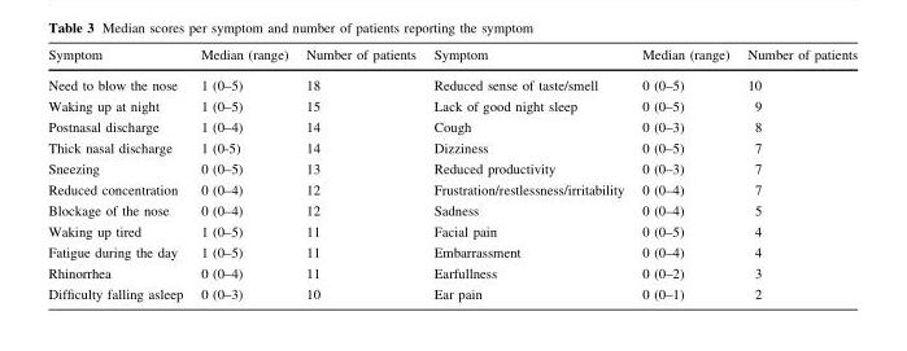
<table><thead><tr><td>Symptom</td><td>Median (range)</td><td>Number of patients</td><td>Symptom</td><td>Median (range)</td><td>Number of patients</td></tr></thead><tbody><tr><td>Need to blow the nose</td><td>1 (0–5)</td><td>18</td><td>Reduced sense of taste/smell</td><td>0 (0–5)</td><td>10</td></tr><tr><td>Waking up at night</td><td>1 (0–5)</td><td>15</td><td>Lack of good night sleep</td><td>0 (0–5)</td><td>9</td></tr><tr><td>Postnasal discharge</td><td>1 (0–4)</td><td>14</td><td>Cough</td><td>0 (0–3)</td><td>8</td></tr><tr><td>Thick nasal discharge</td><td>1 (0-5)</td><td>14</td><td>Dizziness</td><td>0 (0–5)</td><td>7</td></tr><tr><td>Sneezing</td><td>0 (0–5)</td><td>13</td><td>Reduced productivity</td><td>0 (0–3)</td><td>7</td></tr><tr><td>Reduced concentration</td><td>0 (0–4)</td><td>12</td><td>Frustration/restlessness/irritability</td><td>0 (0–4)</td><td>7</td></tr><tr><td>Blockage of the nose</td><td>0 (0–4)</td><td>12</td><td>Sadness</td><td>0 (0–4)</td><td>5</td></tr><tr><td>Waking up tired</td><td>1 (0–5)</td><td>11</td><td>Facial pain</td><td>0 (0–5)</td><td>4</td></tr><tr><td>Fatigue during the day</td><td>1 (0–5)</td><td>11</td><td>Embarrassment</td><td>0 (0–4)</td><td>4</td></tr><tr><td>Rhinorrhea</td><td>0 (0–4)</td><td>11</td><td>Earfullness</td><td>0 (0–2)</td><td>3</td></tr><tr><td>Difficulty falling asleep</td><td>0 (0–3)</td><td>10</td><td>Ear pain</td><td>0 (0–1)</td><td>2</td></tr></tbody></table>